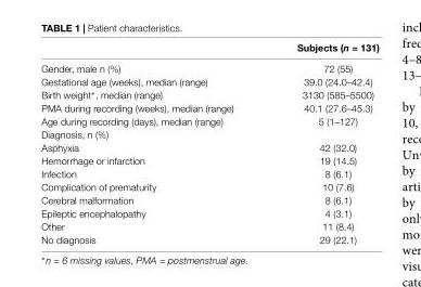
<table><thead><tr><td></td><td>Subjects (n = 131)</td></tr></thead><tbody><tr><td>Gender, male n (%)</td><td>72 (55)</td></tr><tr><td>Gestational age (weeks), median (range)</td><td>39.0 (24.0–42.4)</td></tr><tr><td>Birth weight∗, median (range)</td><td>3130 (585–5500)</td></tr><tr><td>PMA during recording (weeks), median (range)</td><td>40.1 (27.6–45.3)</td></tr><tr><td>Age during recording (days), median (range)</td><td>5 (1–127)</td></tr><tr><td colspan="2">Diagnosis, n (%)</td></tr><tr><td>Asphyxia</td><td>42 (32.0)</td></tr><tr><td>Hemorrhage or infarction</td><td>19 (14.5)</td></tr><tr><td>Infection</td><td>8 (6.1)</td></tr><tr><td>Complication of prematurity</td><td>10 (7.6)</td></tr><tr><td>Cerebral malformation</td><td>8 (6.1)</td></tr><tr><td>Epileptic encephalopathy</td><td>4 (3.1)</td></tr><tr><td>Other</td><td>11 (8.4)</td></tr><tr><td>No diagnosis</td><td>29 (22.1)</td></tr></tbody></table>